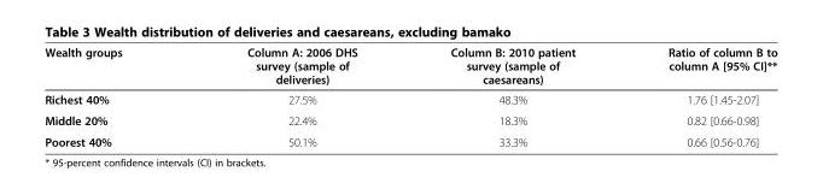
<table><thead><tr><td>Wealth groups</td><td>Column A: 2006 DHS survey (sample of deliveries)</td><td>Column B: 2010 patient survey (sample of caesareans)</td><td>Ratio of column B to column A [95% CI]**</td></tr></thead><tbody><tr><td>Richest 40%</td><td>27.5%</td><td>48.3%</td><td>1.76 [1.45-2.07]</td></tr><tr><td>Middle 20%</td><td>22.4%</td><td>18.3%</td><td>0.82 [0.66-0.98]</td></tr><tr><td>Poorest 40%</td><td>50.1%</td><td>33.3%</td><td>0.66 [0.56-0.76]</td></tr></tbody></table>